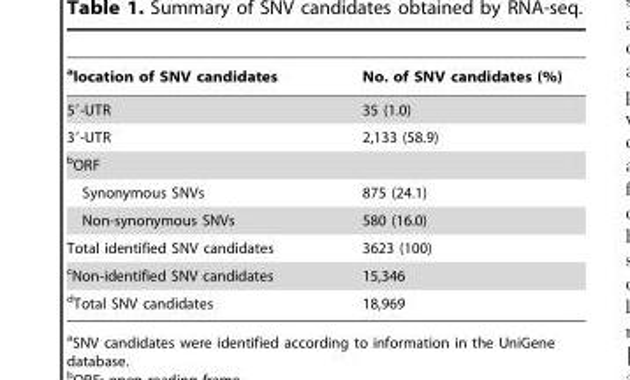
<table><thead><tr><td>alocation of SNV candidates</td><td>No. of SNV candidates (%)</td></tr></thead><tbody><tr><td>5′-UTR</td><td>35 (1.0)</td></tr><tr><td>3′-UTR</td><td>2,133 (58.9)</td></tr><tr><td colspan="2">bORF</td></tr><tr><td>Synonymous SNVs</td><td>875 (24.1)</td></tr><tr><td>Non-synonymous SNVs</td><td>580 (16.0)</td></tr><tr><td>Total identified SNV candidates</td><td>3623 (100)</td></tr><tr><td>cNon-identified SNV candidates</td><td>15,346</td></tr><tr><td>dTotal SNV candidates</td><td>18,969</td></tr></tbody></table>